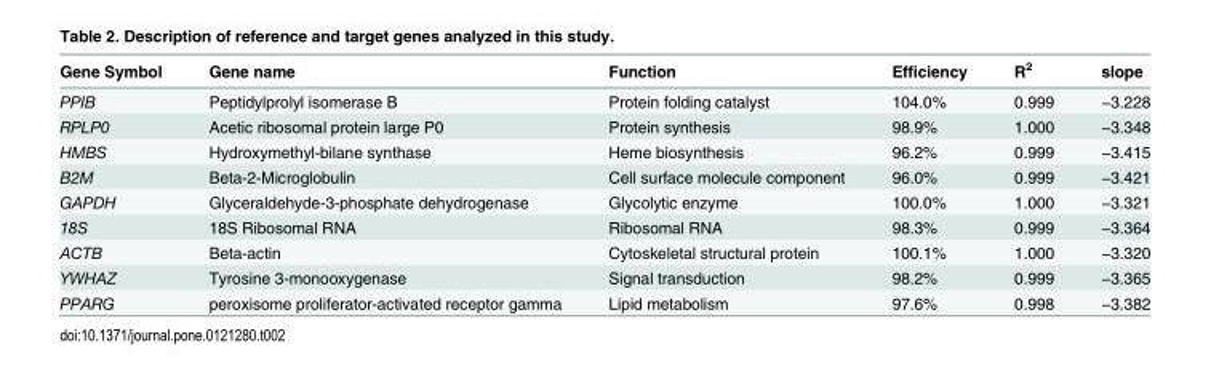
<table><thead><tr><td>Gene Symbol</td><td>Gene name</td><td>Function</td><td>Efficiency</td><td>R<sup>2</sup></td><td>slope</td></tr></thead><tbody><tr><td>PPIB</td><td>Peptidylprolyl isomerase B</td><td>Protein folding catalyst</td><td>104.0%</td><td>0.999</td><td>−3.228</td></tr><tr><td>RPLP0</td><td>Acetic ribosomal protein large P0</td><td>Protein synthesis</td><td>98.9%</td><td>1.000</td><td>−3.348</td></tr><tr><td>HMBS</td><td>Hydroxymethyl-bilane synthase</td><td>Heme biosynthesis</td><td>96.2%</td><td>0.999</td><td>−3.415</td></tr><tr><td>B2M</td><td>Beta-2-Microglobulin</td><td>Cell surface molecule component</td><td>96.0%</td><td>0.999</td><td>−3.421</td></tr><tr><td>GAPDH</td><td>Glyceraldehyde-3-phosphate dehydrogenase</td><td>Glycolytic enzyme</td><td>100.0%</td><td>1.000</td><td>−3.321</td></tr><tr><td>18S</td><td>18S Ribosomal RNA</td><td>Ribosomal RNA</td><td>98.3%</td><td>0.999</td><td>−3.364</td></tr><tr><td>ACTB</td><td>Beta-actin</td><td>Cytoskeletal structural protein</td><td>100.1%</td><td>1.000</td><td>−3.320</td></tr><tr><td>YWHAZ</td><td>Tyrosine 3-monooxygenase</td><td>Signal transduction</td><td>98.2%</td><td>0.999</td><td>−3.365</td></tr><tr><td>PPARG</td><td>peroxisome proliferator-activated receptor gamma</td><td>Lipid metabolism</td><td>97.6%</td><td>0.998</td><td>−3.382</td></tr></tbody></table>